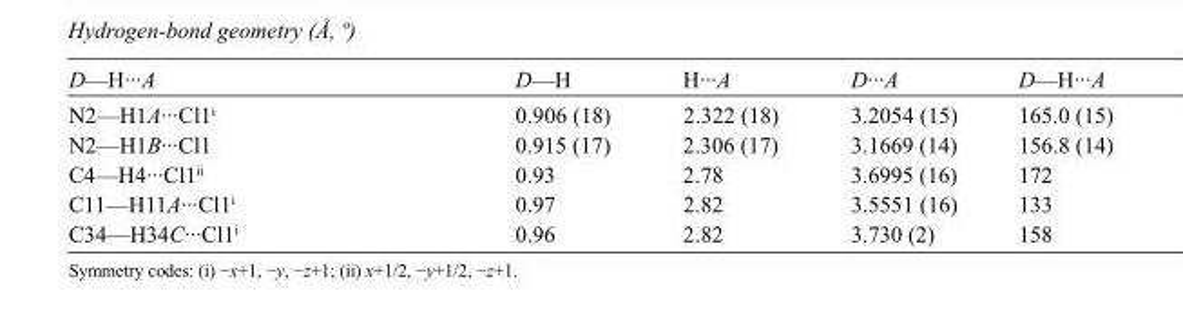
<table><tbody><tr><td>D—H···A</td><td>D—H</td><td>H···A</td><td>D···A</td><td>D—H···A</td></tr><tr><td>N2—H1A···Cl1<sup>i</sup></td><td>0.906 (18)</td><td>2.322 (18)</td><td>3.2054 (15)</td><td>165.0 (15)</td></tr><tr><td>N2—H1B···Cl1</td><td>0.915 (17)</td><td>2.306 (17)</td><td>3.1669 (14)</td><td>156.8 (14)</td></tr><tr><td>C4—H4···Cl1<sup>ii</sup></td><td>0.93</td><td>2.78</td><td>3.6995 (16)</td><td>172</td></tr><tr><td>C11—H11A···Cl1<sup>i</sup></td><td>0.97</td><td>2.82</td><td>3.5551 (16)</td><td>133</td></tr><tr><td>C34—H34C···Cl1<sup>i</sup></td><td>0.96</td><td>2.82</td><td>3.730 (2)</td><td>158</td></tr></tbody></table>